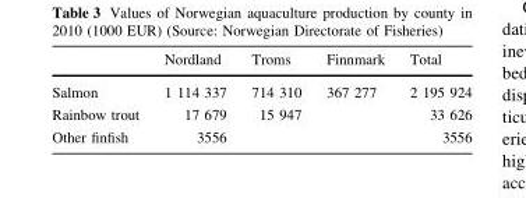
<table><thead><tr><td></td><td>Nordland</td><td>Troms</td><td>Finnmark</td><td>Total</td></tr></thead><tbody><tr><td>Salmon</td><td>1 114 337</td><td>714 310</td><td>367 277</td><td>2 195 924</td></tr><tr><td>Rainbow trout</td><td>17 679</td><td>15 947</td><td></td><td>33 626</td></tr><tr><td>Other finfish</td><td>3556</td><td></td><td></td><td>3556</td></tr></tbody></table>